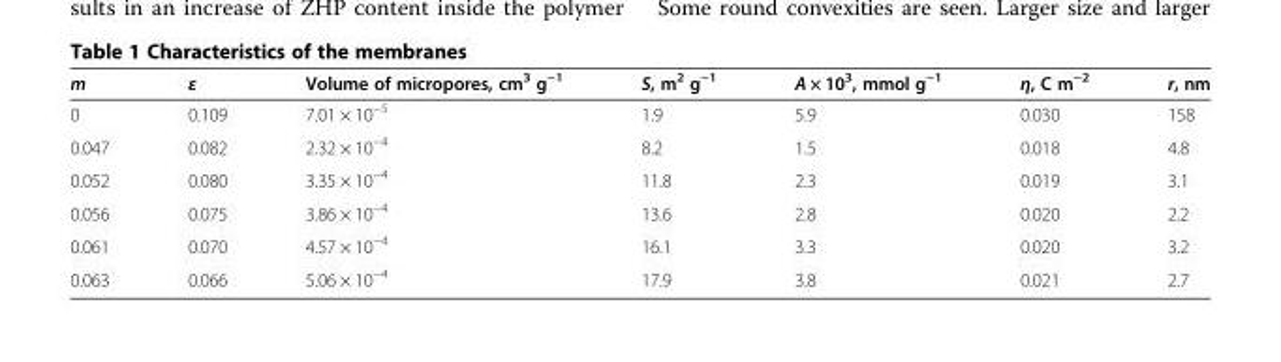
<table><thead><tr><td>m</td><td>ε</td><td>Volume of micropores, cm<sup>3</sup> g<sup>−1</sup></td><td>S, m<sup>2</sup> g<sup>−1</sup></td><td>A × 10<sup>3</sup>, mmol g<sup>−1</sup></td><td>η, C m<sup>−2</sup></td><td>r, nm</td></tr></thead><tbody><tr><td>0</td><td>0.109</td><td>7.01 × 10<sup>−5</sup></td><td>1.9</td><td>5.9</td><td>0.030</td><td>158</td></tr><tr><td>0.047</td><td>0.082</td><td>2.32 × 10<sup>−4</sup></td><td>8.2</td><td>1.5</td><td>0.018</td><td>4.8</td></tr><tr><td>0.052</td><td>0.080</td><td>3.35 × 10<sup>−4</sup></td><td>11.8</td><td>2.3</td><td>0.019</td><td>3.1</td></tr><tr><td>0.056</td><td>0.075</td><td>3.86 × 10<sup>−4</sup></td><td>13.6</td><td>2.8</td><td>0.020</td><td>2.2</td></tr><tr><td>0.061</td><td>0.070</td><td>4.57 × 10<sup>−4</sup></td><td>16.1</td><td>3.3</td><td>0.020</td><td>3.2</td></tr><tr><td>0.063</td><td>0.066</td><td>5.06 × 10<sup>−4</sup></td><td>17.9</td><td>3.8</td><td>0.021</td><td>2.7</td></tr></tbody></table>